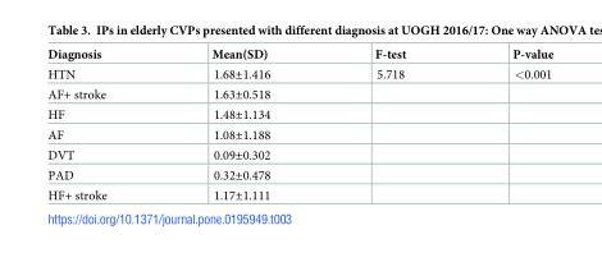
<table><thead><tr><td>Diagnosis</td><td>Mean(SD)</td><td>F-test</td><td>P-value</td></tr></thead><tbody><tr><td>HTN</td><td>1.68±1.416</td><td>5.718</td><td>&lt;0.001</td></tr><tr><td>AF+ stroke</td><td>1.63±0.518</td><td></td><td></td></tr><tr><td>HF</td><td>1.48±1.134</td><td></td><td></td></tr><tr><td>AF</td><td>1.08±1.188</td><td></td><td></td></tr><tr><td>DVT</td><td>0.09±0.302</td><td></td><td></td></tr><tr><td>PAD</td><td>0.32±0.478</td><td></td><td></td></tr><tr><td>HF+ stroke</td><td>1.17±1.111</td><td></td><td></td></tr></tbody></table>